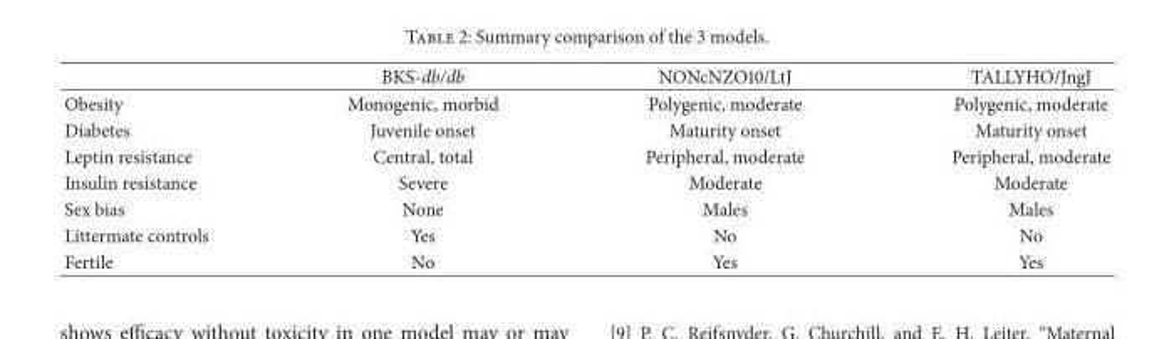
<table><thead><tr><td></td><td>BKS-db/db</td><td>NONcNZO10/LtJ</td><td>TALLYHO/JngJ</td></tr></thead><tbody><tr><td>Obesity</td><td>Monogenic, morbid</td><td>Polygenic, moderate</td><td>Polygenic, moderate</td></tr><tr><td>Diabetes</td><td>Juvenile onset</td><td>Maturity onset</td><td>Maturity onset</td></tr><tr><td>Leptin resistance</td><td>Central, total</td><td>Peripheral, moderate</td><td>Peripheral, moderate</td></tr><tr><td>Insulin resistance</td><td>Severe</td><td>Moderate</td><td>Moderate</td></tr><tr><td>Sex bias</td><td>None</td><td>Males</td><td>Males</td></tr><tr><td>Littermate controls</td><td>Yes</td><td>No</td><td>No</td></tr><tr><td>Fertile</td><td>No</td><td>Yes</td><td>Yes</td></tr></tbody></table>